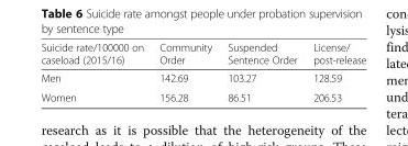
<table><thead><tr><td>Suicide rate/100000 on caseload (2015/16)</td><td>Community Order</td><td>Suspended Sentence Order</td><td>License/ post-release</td></tr></thead><tbody><tr><td>Men</td><td>142.69</td><td>103.27</td><td>128.59</td></tr><tr><td>Women</td><td>156.28</td><td>86.51</td><td>206.53</td></tr></tbody></table>